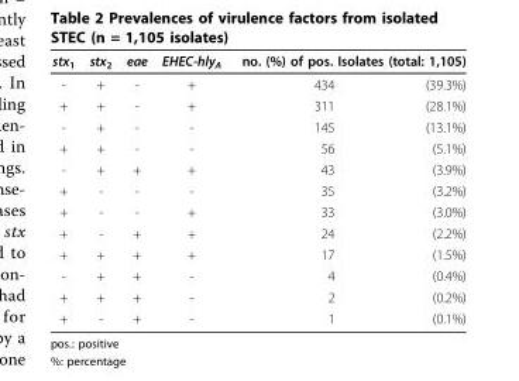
<table><thead><tr><td rowspan="2">stx<sub>1</sub> -</td><td rowspan="2">stx<sub>2</sub> +</td><td rowspan="2">eae -</td><td rowspan="2">EHEC-hly<sub>A</sub> +</td><td colspan="2">no. (%) of pos. Isolates (total: 1,105)</td></tr><tr><td>434</td><td>(39.3%)</td></tr></thead><tbody><tr><td>+</td><td>+</td><td>-</td><td>+</td><td>311</td><td>(28.1%)</td></tr><tr><td>-</td><td>+</td><td>-</td><td>-</td><td>145</td><td>(13.1%)</td></tr><tr><td>+</td><td>+</td><td>-</td><td>-</td><td>56</td><td>(5.1%)</td></tr><tr><td>-</td><td>+</td><td>+</td><td>+</td><td>43</td><td>(3.9%)</td></tr><tr><td>+</td><td>-</td><td>-</td><td>-</td><td>35</td><td>(3.2%)</td></tr><tr><td>+</td><td>-</td><td>-</td><td>+</td><td>33</td><td>(3.0%)</td></tr><tr><td>+</td><td>-</td><td>+</td><td>+</td><td>24</td><td>(2.2%)</td></tr><tr><td>+</td><td>+</td><td>+</td><td>+</td><td>17</td><td>(1.5%)</td></tr><tr><td>-</td><td>+</td><td>+</td><td>-</td><td>4</td><td>(0.4%)</td></tr><tr><td>+</td><td>+</td><td>+</td><td>-</td><td>2</td><td>(0.2%)</td></tr><tr><td>+</td><td>-</td><td>+</td><td>-</td><td>1</td><td>(0.1%)</td></tr></tbody></table>